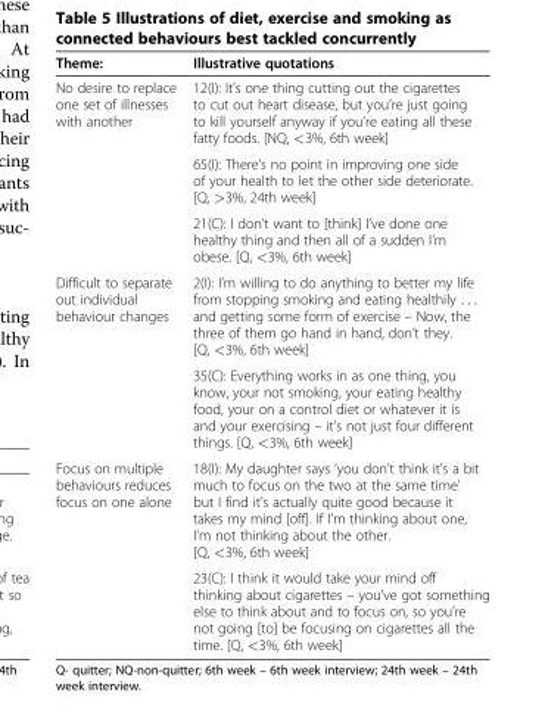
<table><thead><tr><td>Theme:</td><td>Illustrative quotations</td></tr></thead><tbody><tr><td rowspan="3">No desire to replace one set of illnesses with another</td><td>12(I): It’s one thing cutting out the cigarettes to cut out heart disease, but you’re just going to kill yourself anyway if you’re eating all these fatty foods. [NQ, &lt;3%, 6th week]</td></tr><tr><td>65(I): There’s no point in improving one side of your health to let the other side deteriorate. [Q, &gt;3%, 24th week]</td></tr><tr><td>21(C): I don’t want to [think] I’ve done one healthy thing and then all of a sudden I’m obese. [Q, &lt;3%, 6th week]</td></tr><tr><td rowspan="2">Difficult to separate out individual behaviour changes</td><td>2(I): I’m willing to do anything to better my life from stopping smoking and eating healthily . . . and getting some form of exercise – Now, the three of them go hand in hand, don’t they. [Q, &lt;3%, 6th week]</td></tr><tr><td>35(C): Everything works in as one thing, you know, your not smoking, your eating healthy food, your on a control diet or whatever it is and your exercising – it’s not just four different things. [Q, &lt;3%, 6th week]</td></tr><tr><td rowspan="2">Focus on multiple behaviours reduces focus on one alone</td><td>18(I): My daughter says ‘you don’t think it’s a bit much to focus on the two at the same time’ but I find it’s actually quite good because it takes my mind [off]. If I’m thinking about one, I’m not thinking about the other. [Q, &lt;3%, 6th week]</td></tr><tr><td>23(C): I think it would take your mind off thinking about cigarettes – you’ve got something else to think about and to focus on, so you’re not going [to] be focusing on cigarettes all the time. [Q, &lt;3%, 6th week]</td></tr></tbody></table>